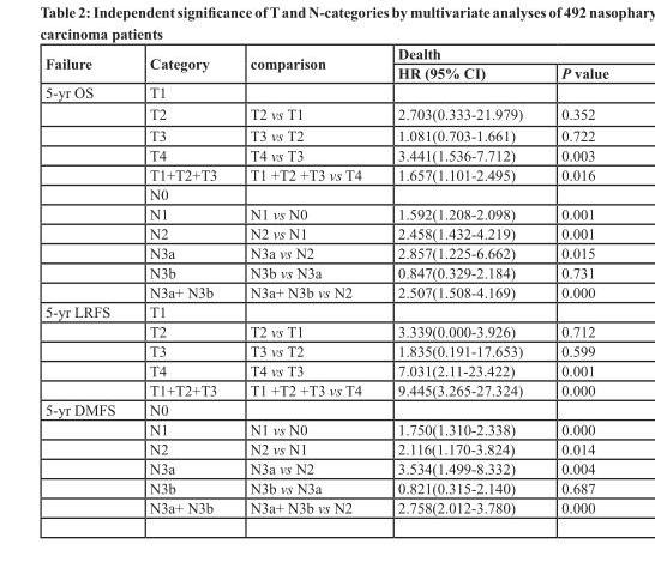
<table><thead><tr><td rowspan="2">Failure</td><td rowspan="2">Category</td><td rowspan="2">comparison</td><td colspan="2">Dealth</td></tr><tr><td>HR (95% CI)</td><td>P value</td></tr></thead><tbody><tr><td rowspan="11">5-yr OS</td><td>T1</td><td></td><td></td><td></td></tr><tr><td>T2</td><td>T2 vs T1</td><td>2.703(0.333-21.979)</td><td>0.352</td></tr><tr><td>T3</td><td>T3 vs T2</td><td>1.081(0.703-1.661)</td><td>0.722</td></tr><tr><td>T4</td><td>T4 vs T3</td><td>3.441(1.536-7.712)</td><td>0.003</td></tr><tr><td>T1+T2+T3</td><td>T1 +T2 +T3 vs T4</td><td>1.657(1.101-2.495)</td><td>0.016</td></tr><tr><td>N0</td><td></td><td></td><td></td></tr><tr><td>N1</td><td>N1 vs N0</td><td>1.592(1.208-2.098)</td><td>0.001</td></tr><tr><td>N2</td><td>N2 vs N1</td><td>2.458(1.432-4.219)</td><td>0.001</td></tr><tr><td>N3a</td><td>N3a vs N2</td><td>2.857(1.225-6.662)</td><td>0.015</td></tr><tr><td>N3b</td><td>N3b vs N3a</td><td>0.847(0.329-2.184)</td><td>0.731</td></tr><tr><td>N3a+ N3b</td><td>N3a+ N3b vs N2</td><td>2.507(1.508-4.169)</td><td>0.000</td></tr><tr><td rowspan="5">5-yr LRFS</td><td>T1</td><td></td><td></td><td></td></tr><tr><td>T2</td><td>T2 vs T1</td><td>3.339(0.000-3.926)</td><td>0.712</td></tr><tr><td>T3</td><td>T3 vs T2</td><td>1.835(0.191-17.653)</td><td>0.599</td></tr><tr><td>T4</td><td>T4 vs T3</td><td>7.031(2.11-23.422)</td><td>0.001</td></tr><tr><td>T1+T2+T3</td><td>T1 +T2 +T3 vs T4</td><td>9.445(3.265-27.324)</td><td>0.000</td></tr><tr><td rowspan="6">5-yr DMFS</td><td>N0</td><td></td><td></td><td></td></tr><tr><td>N1</td><td>N1 vs N0</td><td>1.750(1.310-2.338)</td><td>0.000</td></tr><tr><td>N2</td><td>N2 vs N1</td><td>2.116(1.170-3.824)</td><td>0.014</td></tr><tr><td>N3a</td><td>N3a vs N2</td><td>3.534(1.499-8.332)</td><td>0.004</td></tr><tr><td>N3b</td><td>N3b vs N3a</td><td>0.821(0.315-2.140)</td><td>0.687</td></tr><tr><td>N3a+ N3b</td><td>N3a+ N3b vs N2</td><td>2.758(2.012-3.780)</td><td>0.000</td></tr></tbody></table>